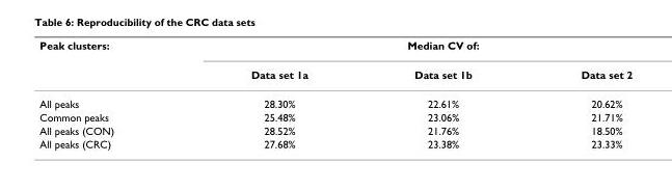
<table><thead><tr><td rowspan="2">Peak clusters:</td><td colspan="3">Median CV of:</td></tr><tr><td>Data set 1a</td><td>Data set 1b</td><td>Data set 2</td></tr></thead><tbody><tr><td>All peaks</td><td>28.30%</td><td>22.61%</td><td>20.62%</td></tr><tr><td>Common peaks</td><td>25.48%</td><td>23.06%</td><td>21.71%</td></tr><tr><td>All peaks (CON)</td><td>28.52%</td><td>21.76%</td><td>18.50%</td></tr><tr><td>All peaks (CRC)</td><td>27.68%</td><td>23.38%</td><td>23.33%</td></tr></tbody></table>